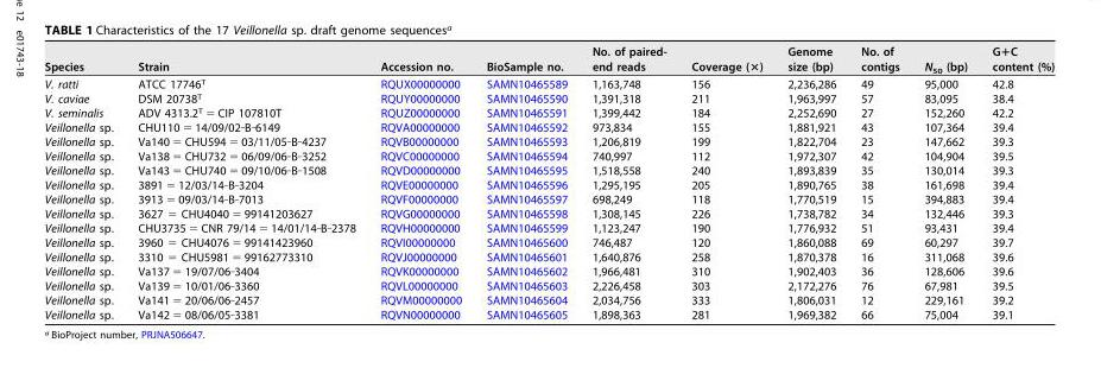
<table><thead><tr><td>Species</td><td>Strain</td><td>Accession no.</td><td>BioSample no.</td><td>No. of paired- end reads</td><td>Coverage (×)</td><td>Genome size (bp)</td><td>No. of contigs</td><td>N<sub>50</sub> (bp)</td><td>G+C content (%)</td></tr></thead><tbody><tr><td>V. ratti</td><td>ATCC 17746<sup>T</sup></td><td>RQUX00000000</td><td>SAMN10465589</td><td>1,163,748</td><td>156</td><td>2,236,286</td><td>49</td><td>95,000</td><td>42.8</td></tr><tr><td>V. caviae</td><td>DSM 20738<sup>T</sup></td><td>RQUY00000000</td><td>SAMN10465590</td><td>1,391,318</td><td>211</td><td>1,963,997</td><td>57</td><td>83,095</td><td>38.4</td></tr><tr><td>V. seminalis</td><td>ADV 4313.2<sup>T</sup> = CIP 107810T</td><td>RQUZ00000000</td><td>SAMN10465591</td><td>1,399,442</td><td>184</td><td>2,252,690</td><td>27</td><td>152,260</td><td>42.2</td></tr><tr><td>Veillonella sp.</td><td>CHU110 = 14/09/02‐B‐6149</td><td>RQVA00000000</td><td>SAMN10465592</td><td>973,834</td><td>155</td><td>1,881,921</td><td>43</td><td>107,364</td><td>39.4</td></tr><tr><td>Veillonella sp.</td><td>Va140 = CHU594 = 03/11/05‐B‐4237</td><td>RQVB00000000</td><td>SAMN10465593</td><td>1,206,819</td><td>199</td><td>1,822,704</td><td>23</td><td>147,662</td><td>39.3</td></tr><tr><td>Veillonella sp.</td><td>Va138 = CHU732 = 06/09/06‐B‐3252</td><td>RQVC00000000</td><td>SAMN10465594</td><td>740,997</td><td>112</td><td>1,972,307</td><td>42</td><td>104,904</td><td>39.5</td></tr><tr><td>Veillonella sp.</td><td>Va143 = CHU740 = 09/10/06‐B‐1508</td><td>RQVD00000000</td><td>SAMN10465595</td><td>1,518,558</td><td>240</td><td>1,893,839</td><td>35</td><td>130,014</td><td>39.3</td></tr><tr><td>Veillonella sp.</td><td>3891 = 12/03/14‐B‐3204</td><td>RQVE00000000</td><td>SAMN10465596</td><td>1,295,195</td><td>205</td><td>1,890,765</td><td>38</td><td>161,698</td><td>39.4</td></tr><tr><td>Veillonella sp.</td><td>3913 = 09/03/14‐B‐7013</td><td>RQVF00000000</td><td>SAMN10465597</td><td>698,249</td><td>118</td><td>1,770,519</td><td>15</td><td>394,883</td><td>39.4</td></tr><tr><td>Veillonella sp.</td><td>3627 = CHU4040 = 99141203627</td><td>RQVG00000000</td><td>SAMN10465598</td><td>1,308,145</td><td>226</td><td>1,738,782</td><td>34</td><td>132,446</td><td>39.3</td></tr><tr><td>Veillonella sp.</td><td>CHU3735 = CNR 79/14 = 14/01/14‐B‐2378</td><td>RQVH00000000</td><td>SAMN10465599</td><td>1,123,247</td><td>190</td><td>1,776,932</td><td>51</td><td>93,431</td><td>39.4</td></tr><tr><td>Veillonella sp.</td><td>3960 = CHU4076 = 99141423960</td><td>RQVI00000000</td><td>SAMN10465600</td><td>746,487</td><td>120</td><td>1,860,088</td><td>69</td><td>60,297</td><td>39.7</td></tr><tr><td>Veillonella sp.</td><td>3310 = CHU5981 = 99162773310</td><td>RQVJ00000000</td><td>SAMN10465601</td><td>1,640,876</td><td>258</td><td>1,870,378</td><td>16</td><td>311,068</td><td>39.6</td></tr><tr><td>Veillonella sp.</td><td>Va137 = 19/07/06‐3404</td><td>RQVK00000000</td><td>SAMN10465602</td><td>1,966,481</td><td>310</td><td>1,902,403</td><td>36</td><td>128,606</td><td>39.6</td></tr><tr><td>Veillonella sp.</td><td>Va139 = 10/01/06‐3360</td><td>RQVL00000000</td><td>SAMN10465603</td><td>2,226,458</td><td>303</td><td>2,172,276</td><td>76</td><td>67,981</td><td>39.5</td></tr><tr><td>Veillonella sp.</td><td>Va141 = 20/06/06‐2457</td><td>RQVM00000000</td><td>SAMN10465604</td><td>2,034,756</td><td>333</td><td>1,806,031</td><td>12</td><td>229,161</td><td>39.2</td></tr><tr><td>Veillonella sp.</td><td>Va142 = 08/06/05‐3381</td><td>RQVN00000000</td><td>SAMN10465605</td><td>1,898,363</td><td>281</td><td>1,969,382</td><td>66</td><td>75,004</td><td>39.1</td></tr></tbody></table>